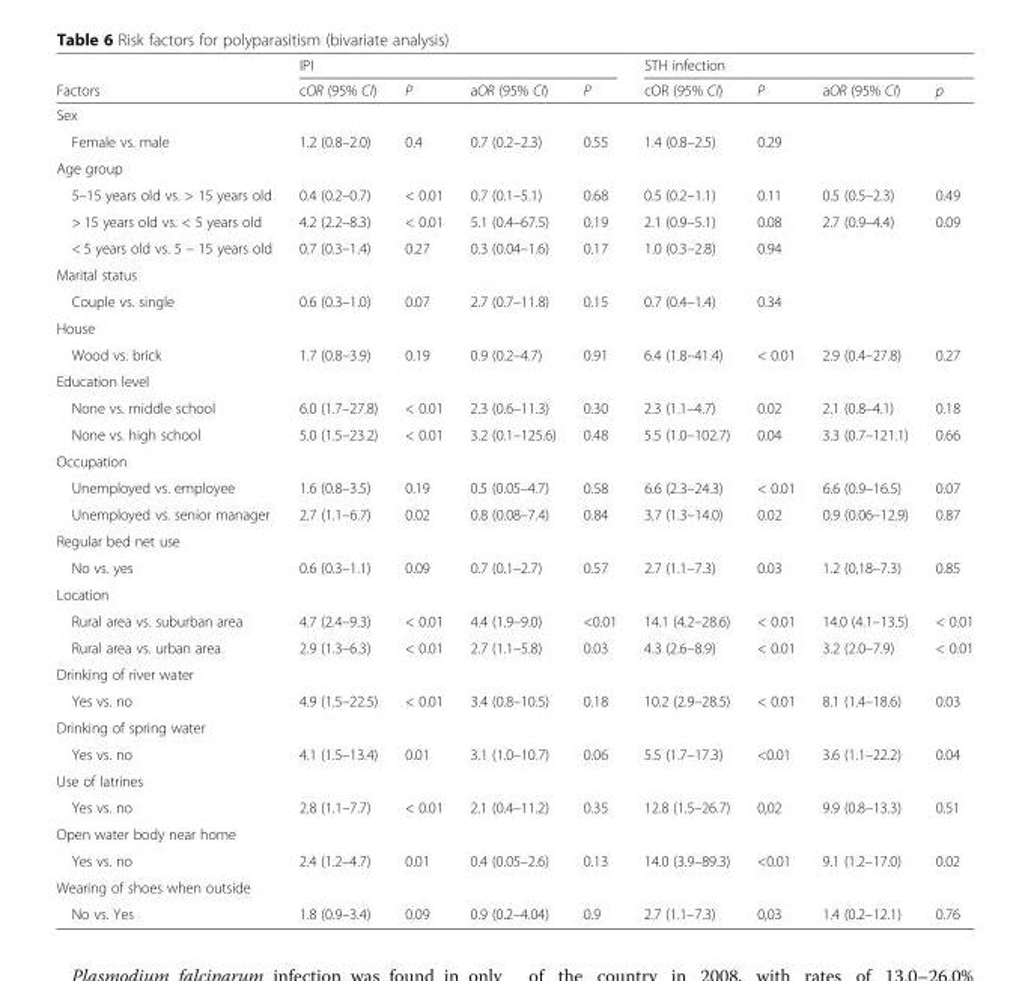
<table><thead><tr><td rowspan="2">Factors</td><td colspan="4">IPI</td><td colspan="4">STH infection</td></tr><tr><td>cOR (95% CI)</td><td>P</td><td>aOR (95% CI)</td><td>P</td><td>cOR (95% CI)</td><td>P</td><td>aOR (95% CI)</td><td>p</td></tr></thead><tbody><tr><td colspan="9">Sex</td></tr><tr><td>Female vs. male</td><td>1.2 (0.8–2.0)</td><td>0.4</td><td>0.7 (0.2–2.3)</td><td>0.55</td><td>1.4 (0.8–2.5)</td><td>0.29</td><td></td><td></td></tr><tr><td colspan="9">Age group</td></tr><tr><td>5–15 years old vs. &gt; 15 years old</td><td>0.4 (0.2–0.7)</td><td>&lt; 0.01</td><td>0.7 (0.1–5.1)</td><td>0.68</td><td>0.5 (0.2–1.1)</td><td>0.11</td><td>0.5 (0.5–2.3)</td><td>0.49</td></tr><tr><td>&gt; 15 years old vs. &lt; 5 years old</td><td>4.2 (2.2–8.3)</td><td>&lt; 0.01</td><td>5.1 (0.4–67.5)</td><td>0.19</td><td>2.1 (0.9–5.1)</td><td>0.08</td><td>2.7 (0.9–4.4)</td><td>0.09</td></tr><tr><td>&lt; 5 years old vs. 5 – 15 years old</td><td>0.7 (0.3–1.4)</td><td>0.27</td><td>0.3 (0.04–1.6)</td><td>0.17</td><td>1.0 (0.3–2.8)</td><td>0.94</td><td></td><td></td></tr><tr><td colspan="9">Marital status</td></tr><tr><td>Couple vs. single</td><td>0.6 (0.3–1.0)</td><td>0.07</td><td>2.7 (0.7–11.8)</td><td>0.15</td><td>0.7 (0.4–1.4)</td><td>0.34</td><td></td><td></td></tr><tr><td colspan="9">House</td></tr><tr><td>Wood vs. brick</td><td>1.7 (0.8–3.9)</td><td>0.19</td><td>0.9 (0.2–4.7)</td><td>0.91</td><td>6.4 (1.8–41.4)</td><td>&lt; 0.01</td><td>2.9 (0.4–27.8)</td><td>0.27</td></tr><tr><td colspan="9">Education level</td></tr><tr><td>None vs. middle school</td><td>6.0 (1.7–27.8)</td><td>&lt; 0.01</td><td>2.3 (0.6–11.3)</td><td>0.30</td><td>2.3 (1.1–4.7)</td><td>0.02</td><td>2.1 (0.8–4.1)</td><td>0.18</td></tr><tr><td>None vs. high school</td><td>5.0 (1.5–23.2)</td><td>&lt; 0.01</td><td>3.2 (0.1–125.6)</td><td>0.48</td><td>5.5 (1.0–102.7)</td><td>0.04</td><td>3.3 (0.7–121.1)</td><td>0.66</td></tr><tr><td colspan="9">Occupation</td></tr><tr><td>Unemployed vs. employee</td><td>1.6 (0.8–3.5)</td><td>0.19</td><td>0.5 (0.05–4.7)</td><td>0.58</td><td>6.6 (2.3–24.3)</td><td>&lt; 0.01</td><td>6.6 (0.9–16.5)</td><td>0.07</td></tr><tr><td>Unemployed vs. senior manager</td><td>2.7 (1.1–6.7)</td><td>0.02</td><td>0.8 (0.08–7.4)</td><td>0.84</td><td>3.7 (1.3–14.0)</td><td>0.02</td><td>0.9 (0.06–12.9)</td><td>0.87</td></tr><tr><td colspan="9">Regular bed net use</td></tr><tr><td>No vs. yes</td><td>0.6 (0.3–1.1)</td><td>0.09</td><td>0.7 (0.1–2.7)</td><td>0.57</td><td>2.7 (1.1–7.3)</td><td>0.03</td><td>1.2 (0,18–7.3)</td><td>0.85</td></tr><tr><td colspan="9">Location</td></tr><tr><td>Rural area vs. suburban area</td><td>4.7 (2.4–9.3)</td><td>&lt; 0.01</td><td>4.4 (1.9–9.0)</td><td>&lt;0.01</td><td>14.1 (4.2–28.6)</td><td>&lt; 0.01</td><td>14.0 (4.1–13.5)</td><td>&lt; 0.01</td></tr><tr><td>Rural area vs. urban area</td><td>2.9 (1.3–6.3)</td><td>&lt; 0.01</td><td>2.7 (1.1–5.8)</td><td>0.03</td><td>4.3 (2.6–8.9)</td><td>&lt; 0.01</td><td>3.2 (2.0–7.9)</td><td>&lt; 0.01</td></tr><tr><td colspan="9">Drinking of river water</td></tr><tr><td>Yes vs. no</td><td>4.9 (1.5–22.5)</td><td>&lt; 0.01</td><td>3.4 (0.8–10.5)</td><td>0.18</td><td>10.2 (2.9–28.5)</td><td>&lt; 0.01</td><td>8.1 (1.4–18.6)</td><td>0.03</td></tr><tr><td colspan="9">Drinking of spring water</td></tr><tr><td>Yes vs. no</td><td>4.1 (1.5–13.4)</td><td>0.01</td><td>3.1 (1.0–10.7)</td><td>0.06</td><td>5.5 (1.7–17.3)</td><td>&lt;0.01</td><td>3.6 (1.1–22.2)</td><td>0.04</td></tr><tr><td colspan="9">Use of latrines</td></tr><tr><td>Yes vs. no</td><td>2.8 (1.1–7.7)</td><td>&lt; 0.01</td><td>2.1 (0.4–11.2)</td><td>0.35</td><td>12.8 (1.5–26.7)</td><td>0,02</td><td>9.9 (0.8–13.3)</td><td>0.51</td></tr><tr><td colspan="9">Open water body near home</td></tr><tr><td>Yes vs. no</td><td>2.4 (1.2–4.7)</td><td>0.01</td><td>0.4 (0.05–2.6)</td><td>0.13</td><td>14.0 (3.9–89.3)</td><td>&lt;0.01</td><td>9.1 (1.2–17.0)</td><td>0.02</td></tr><tr><td colspan="9">Wearing of shoes when outside</td></tr><tr><td>No vs. Yes</td><td>1.8 (0.9–3.4)</td><td>0.09</td><td>0.9 (0.2–4.04)</td><td>0.9</td><td>2.7 (1.1–7.3)</td><td>0,03</td><td>1.4 (0.2–12.1)</td><td>0.76</td></tr></tbody></table>